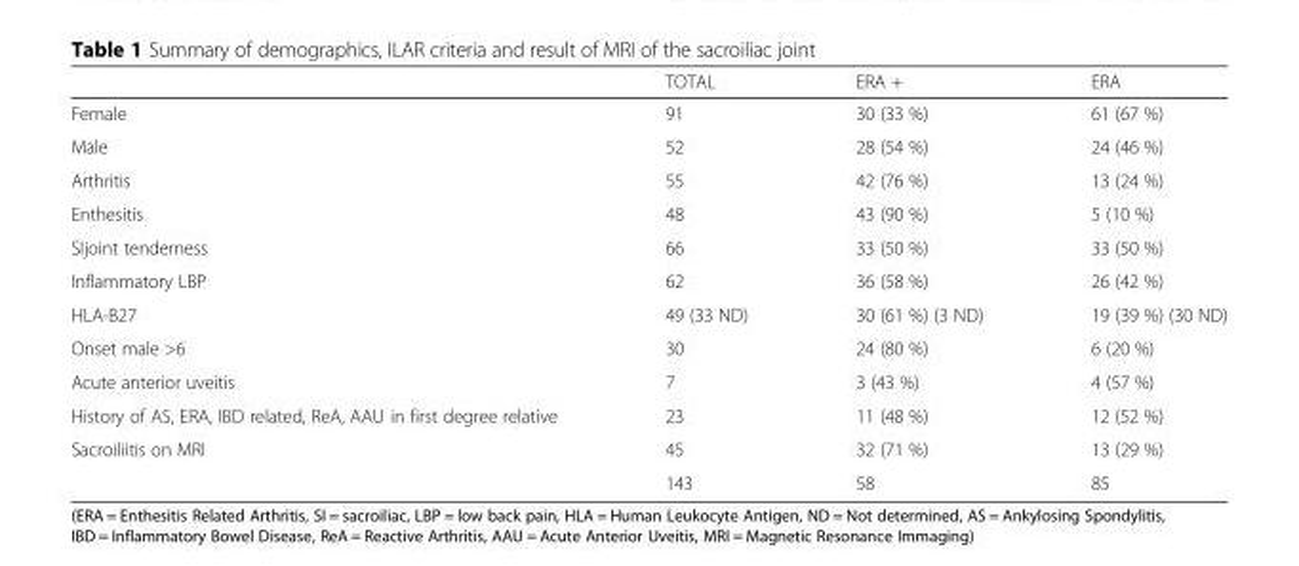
<table><thead><tr><td></td><td>TOTAL</td><td>ERA +</td><td>ERA</td></tr></thead><tbody><tr><td>Female</td><td>91</td><td>30 (33 %)</td><td>61 (67 %)</td></tr><tr><td>Male</td><td>52</td><td>28 (54 %)</td><td>24 (46 %)</td></tr><tr><td>Arthritis</td><td>55</td><td>42 (76 %)</td><td>13 (24 %)</td></tr><tr><td>Enthesitis</td><td>48</td><td>43 (90 %)</td><td>5 (10 %)</td></tr><tr><td>SIjoint tenderness</td><td>66</td><td>33 (50 %)</td><td>33 (50 %)</td></tr><tr><td>Inflammatory LBP</td><td>62</td><td>36 (58 %)</td><td>26 (42 %)</td></tr><tr><td>HLA-B27</td><td>49 (33 ND)</td><td>30 (61 %) (3 ND)</td><td>19 (39 %) (30 ND)</td></tr><tr><td>Onset male &gt;6</td><td>30</td><td>24 (80 %)</td><td>6 (20 %)</td></tr><tr><td>Acute anterior uveitis</td><td>7</td><td>3 (43 %)</td><td>4 (57 %)</td></tr><tr><td>History of AS, ERA, IBD related, ReA, AAU in first degree relative</td><td>23</td><td>11 (48 %)</td><td>12 (52 %)</td></tr><tr><td rowspan="2">Sacroiliitis on MRI</td><td>45</td><td>32 (71 %)</td><td>13 (29 %)</td></tr><tr><td>143</td><td>58</td><td>85</td></tr></tbody></table>